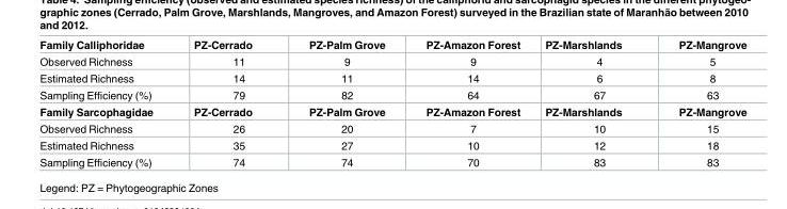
<table><tbody><tr><td>Family Calliphoridae</td><td>PZ-Cerrado</td><td>PZ-Palm Grove</td><td>PZ-Amazon Forest</td><td>PZ-Marshlands</td><td>PZ-Mangrove</td></tr><tr><td>Observed Richness</td><td>11</td><td>9</td><td>9</td><td>4</td><td>5</td></tr><tr><td>Estimated Richness</td><td>14</td><td>11</td><td>14</td><td>6</td><td>8</td></tr><tr><td>Sampling Efficiency (%)</td><td>79</td><td>82</td><td>64</td><td>67</td><td>63</td></tr><tr><td>Family Sarcophagidae</td><td>PZ-Cerrado</td><td>PZ-Palm Grove</td><td>PZ-Amazon Forest</td><td>PZ-Marshlands</td><td>PZ-Mangrove</td></tr><tr><td>Observed Richness</td><td>26</td><td>20</td><td>7</td><td>10</td><td>15</td></tr><tr><td>Estimated Richness</td><td>35</td><td>27</td><td>10</td><td>12</td><td>18</td></tr><tr><td>Sampling Efficiency (%)</td><td>74</td><td>74</td><td>70</td><td>83</td><td>83</td></tr></tbody></table>